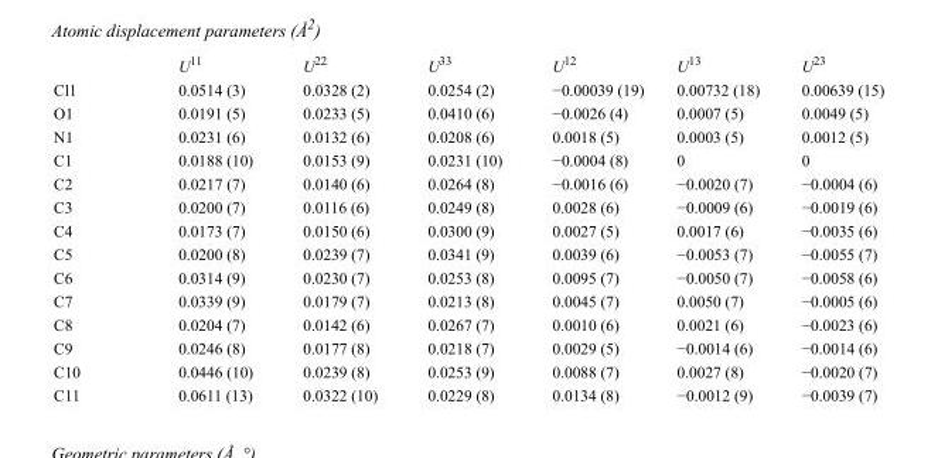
<table><thead><tr><td></td><td>U<sup>11</sup></td><td>U<sup>22</sup></td><td>U<sup>33</sup></td><td>U<sup>12</sup></td><td>U<sup>13</sup></td><td>U<sup>23</sup></td></tr></thead><tbody><tr><td>Cl1</td><td>0.0514 (3)</td><td>0.0328 (2)</td><td>0.0254 (2)</td><td>−0.00039 (19)</td><td>0.00732 (18)</td><td>0.00639 (15)</td></tr><tr><td>O1</td><td>0.0191 (5)</td><td>0.0233 (5)</td><td>0.0410 (6)</td><td>−0.0026 (4)</td><td>0.0007 (5)</td><td>0.0049 (5)</td></tr><tr><td>N1</td><td>0.0231 (6)</td><td>0.0132 (6)</td><td>0.0208 (6)</td><td>0.0018 (5)</td><td>0.0003 (5)</td><td>0.0012 (5)</td></tr><tr><td>C1</td><td>0.0188 (10)</td><td>0.0153 (9)</td><td>0.0231 (10)</td><td>−0.0004 (8)</td><td>0</td><td>0</td></tr><tr><td>C2</td><td>0.0217 (7)</td><td>0.0140 (6)</td><td>0.0264 (8)</td><td>−0.0016 (6)</td><td>−0.0020 (7)</td><td>−0.0004 (6)</td></tr><tr><td>C3</td><td>0.0200 (7)</td><td>0.0116 (6)</td><td>0.0249 (8)</td><td>0.0028 (6)</td><td>−0.0009 (6)</td><td>−0.0019 (6)</td></tr><tr><td>C4</td><td>0.0173 (7)</td><td>0.0150 (6)</td><td>0.0300 (9)</td><td>0.0027 (5)</td><td>0.0017 (6)</td><td>−0.0035 (6)</td></tr><tr><td>C5</td><td>0.0200 (8)</td><td>0.0239 (7)</td><td>0.0341 (9)</td><td>0.0039 (6)</td><td>−0.0053 (7)</td><td>−0.0055 (7)</td></tr><tr><td>C6</td><td>0.0314 (9)</td><td>0.0230 (7)</td><td>0.0253 (8)</td><td>0.0095 (7)</td><td>−0.0050 (7)</td><td>−0.0058 (6)</td></tr><tr><td>C7</td><td>0.0339 (9)</td><td>0.0179 (7)</td><td>0.0213 (8)</td><td>0.0045 (7)</td><td>0.0050 (7)</td><td>−0.0005 (6)</td></tr><tr><td>C8</td><td>0.0204 (7)</td><td>0.0142 (6)</td><td>0.0267 (7)</td><td>0.0010 (6)</td><td>0.0021 (6)</td><td>−0.0023 (6)</td></tr><tr><td>C9</td><td>0.0246 (8)</td><td>0.0177 (8)</td><td>0.0218 (7)</td><td>0.0029 (5)</td><td>−0.0014 (6)</td><td>−0.0014 (6)</td></tr><tr><td>C10</td><td>0.0446 (10)</td><td>0.0239 (8)</td><td>0.0253 (9)</td><td>0.0088 (7)</td><td>0.0027 (8)</td><td>−0.0020 (7)</td></tr><tr><td>C11</td><td>0.0611 (13)</td><td>0.0322 (10)</td><td>0.0229 (8)</td><td>0.0134 (8)</td><td>−0.0012 (9)</td><td>−0.0039 (7)</td></tr></tbody></table>